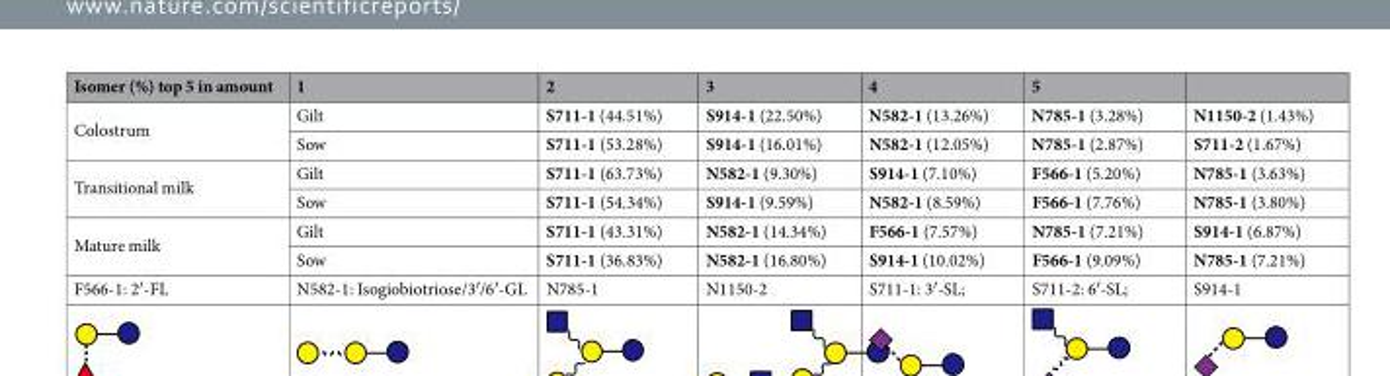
<table><thead><tr><td>Isomer (%) top 5 in amount</td><td>1</td><td>2</td><td>3</td><td>4</td><td>5</td><td></td></tr></thead><tbody><tr><td rowspan="2">Colostrum</td><td>Gilt</td><td>S711-1 (44.51%)</td><td>S914-1 (22.50%)</td><td>N582-1 (13.26%)</td><td>N785-1 (3.28%)</td><td>N1150-2 (1.43%)</td></tr><tr><td>Sow</td><td>S711-1 (53.28%)</td><td>S914-1 (16.01%)</td><td>N582-1 (12.05%)</td><td>N785-1 (2.87%)</td><td>S711-2 (1.67%)</td></tr><tr><td rowspan="2">Transitional milk</td><td>Gilt</td><td>S711-1 (63.73%)</td><td>N582-1 (9.30%)</td><td>S914-1 (7.10%)</td><td>F566-1 (5.20%)</td><td>N785-1 (3.63%)</td></tr><tr><td>Sow</td><td>S711-1 (54.34%)</td><td>S914-1 (9.59%)</td><td>N582-1 (8.59%)</td><td>F566-1 (7.76%)</td><td>N785-1 (3.80%)</td></tr><tr><td rowspan="2">Mature milk</td><td>Gilt</td><td>S711-1 (43.31%)</td><td>N582-1 (14.34%)</td><td>F566-1 (7.57%)</td><td>N785-1 (7.21%)</td><td>S914-1 (6.87%)</td></tr><tr><td>Sow</td><td>S711-1 (36.83%)</td><td>N582-1 (16.80%)</td><td>S914-1 (10.02%)</td><td>F566-1 (9.09%)</td><td>N785-1 (7.21%)</td></tr><tr><td>F566-1: 2′-FL</td><td>N582-1: Isogiobiotriose/3′/6′-GL</td><td>N785-1</td><td>N1150-2</td><td>S711-1: 3′-SL;</td><td>S711-2: 6′-SL;</td><td>S914-1</td></tr></tbody></table>